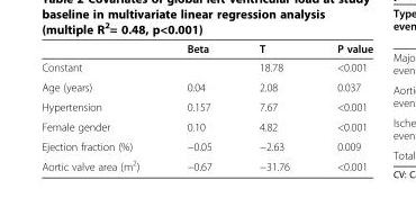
<table><thead><tr><td></td><td>Beta</td><td>T</td><td>P value</td></tr></thead><tbody><tr><td>Constant</td><td></td><td>18.78</td><td>&lt;0.001</td></tr><tr><td>Age (years)</td><td>0.04</td><td>2.08</td><td>0.037</td></tr><tr><td>Hypertension</td><td>0.157</td><td>7.67</td><td>&lt;0.001</td></tr><tr><td>Female gender</td><td>0.10</td><td>4.82</td><td>&lt;0.001</td></tr><tr><td>Ejection fraction (%)</td><td>−0.05</td><td>−2.63</td><td>0.009</td></tr><tr><td>Aortic valve area (m<sup>2</sup>)</td><td>−0.67</td><td>−31.76</td><td>&lt;0.001</td></tr></tbody></table>